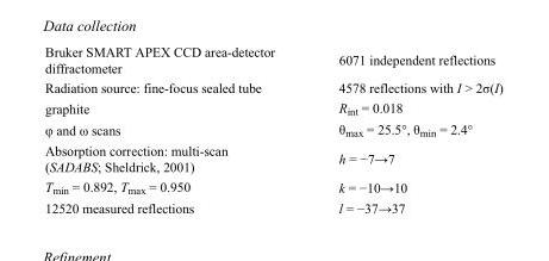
<table><tbody><tr><td>Bruker SMART APEX CCD area-detector diffractometer</td><td>6071 independent reflections</td></tr><tr><td>Radiation source: fine-focus sealed tube</td><td>4578 reflections with I &gt; 2σ(I)</td></tr><tr><td>graphite</td><td>R<sub>int</sub> = 0.018</td></tr><tr><td>φ and ω scans</td><td>θ<sub>max</sub> = 25.5°, θ<sub>min</sub> = 2.4°</td></tr><tr><td>Absorption correction: multi-scan (SADABS; Sheldrick, 2001)</td><td>h = −7→7</td></tr><tr><td>T<sub>min</sub> = 0.892, T<sub>max</sub> = 0.950</td><td>k = −10→10</td></tr><tr><td>12520 measured reflections</td><td>l = −37→37</td></tr></tbody></table>